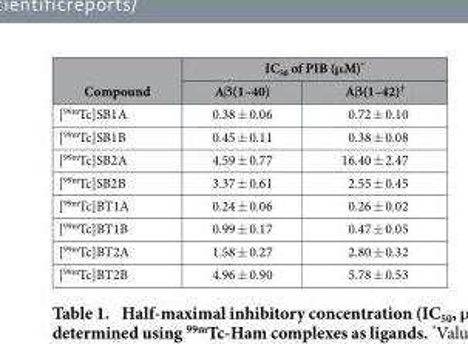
<table><thead><tr><td rowspan="2">Compound</td><td colspan="2">IC<sub>50</sub> of PIB (μM)*</td></tr><tr><td>Aβ(1–40)</td><td>Aβ(1–42)†</td></tr></thead><tbody><tr><td>[<sup>99m</sup>Tc]SB1A</td><td>0.38 ± 0.06</td><td>0.72 ± 0.10</td></tr><tr><td>[<sup>99m</sup>Tc]SB1B</td><td>0.45 ± 0.11</td><td>0.38 ± 0.08</td></tr><tr><td>[<sup>99m</sup>Tc]SB2A</td><td>4.59 ± 0.77</td><td>16.40 ± 2.47</td></tr><tr><td>[<sup>99m</sup>Tc]SB2B</td><td>3.37 ± 0.61</td><td>2.55 ± 0.45</td></tr><tr><td>[<sup>99m</sup>Tc]BT1A</td><td>0.24 ± 0.06</td><td>0.26 ± 0.02</td></tr><tr><td>[<sup>99m</sup>Tc]BT1B</td><td>0.99 ± 0.17</td><td>0.47 ± 0.05</td></tr><tr><td>[<sup>99m</sup>Tc]BT2A</td><td>1.58 ± 0.27</td><td>2.80 ± 0.32</td></tr><tr><td>[<sup>99m</sup>Tc]BT2B</td><td>4.96 ± 0.90</td><td>5.78 ± 0.53</td></tr></tbody></table>